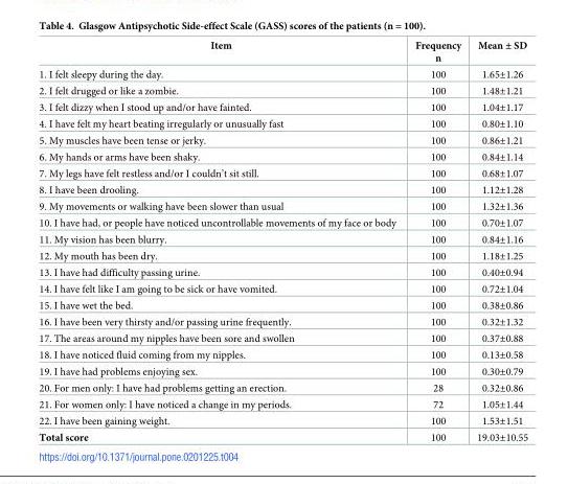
<table><thead><tr><td>Item</td><td>Frequency n</td><td>Mean ± SD</td></tr></thead><tbody><tr><td>1. I felt sleepy during the day.</td><td>100</td><td>1.65±1.26</td></tr><tr><td>2. I felt drugged or like a zombie.</td><td>100</td><td>1.48±1.21</td></tr><tr><td>3. I felt dizzy when I stood up and/or have fainted.</td><td>100</td><td>1.04±1.17</td></tr><tr><td>4. I have felt my heart beating irregularly or unusually fast</td><td>100</td><td>0.80±1.10</td></tr><tr><td>5. My muscles have been tense or jerky.</td><td>100</td><td>0.86±1.21</td></tr><tr><td>6. My hands or arms have been shaky.</td><td>100</td><td>0.84±1.14</td></tr><tr><td>7. My legs have felt restless and/or I couldn’t sit still.</td><td>100</td><td>0.68±1.07</td></tr><tr><td>8. I have been drooling.</td><td>100</td><td>1.12±1.28</td></tr><tr><td>9. My movements or walking have been slower than usual</td><td>100</td><td>1.32±1.36</td></tr><tr><td>10. I have had, or people have noticed uncontrollable movements of my face or body</td><td>100</td><td>0.70±1.07</td></tr><tr><td>11. My vision has been blurry.</td><td>100</td><td>0.84±1.16</td></tr><tr><td>12. My mouth has been dry.</td><td>100</td><td>1.18±1.25</td></tr><tr><td>13. I have had difficulty passing urine.</td><td>100</td><td>0.40±0.94</td></tr><tr><td>14. I have felt like I am going to be sick or have vomited.</td><td>100</td><td>0.72±1.04</td></tr><tr><td>15. I have wet the bed.</td><td>100</td><td>0.38±0.86</td></tr><tr><td>16. I have been very thirsty and/or passing urine frequently.</td><td>100</td><td>0.32±1.32</td></tr><tr><td>17. The areas around my nipples have been sore and swollen</td><td>100</td><td>0.37±0.88</td></tr><tr><td>18. I have noticed fluid coming from my nipples.</td><td>100</td><td>0.13±0.58</td></tr><tr><td>19. I have had problems enjoying sex.</td><td>100</td><td>0.30±0.79</td></tr><tr><td>20. For men only: I have had problems getting an erection.</td><td>28</td><td>0.32±0.86</td></tr><tr><td>21. For women only: I have noticed a change in my periods.</td><td>72</td><td>1.05±1.44</td></tr><tr><td>22. I have been gaining weight.</td><td>100</td><td>1.53±1.51</td></tr><tr><td>Total score</td><td>100</td><td>19.03±10.55</td></tr></tbody></table>